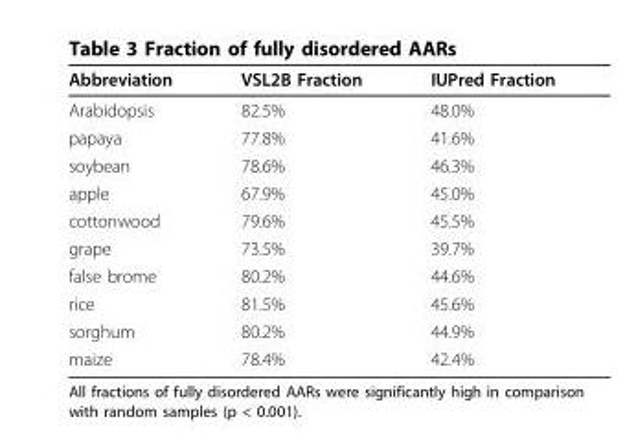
<table><thead><tr><td>Abbreviation</td><td>VSL2B Fraction</td><td>IUPred Fraction</td></tr></thead><tbody><tr><td>Arabidopsis</td><td>82.5%</td><td>48.0%</td></tr><tr><td>papaya</td><td>77.8%</td><td>41.6%</td></tr><tr><td>soybean</td><td>78.6%</td><td>46.3%</td></tr><tr><td>apple</td><td>67.9%</td><td>45.0%</td></tr><tr><td>cottonwood</td><td>79.6%</td><td>45.5%</td></tr><tr><td>grape</td><td>73.5%</td><td>39.7%</td></tr><tr><td>false brome</td><td>80.2%</td><td>44.6%</td></tr><tr><td>rice</td><td>81.5%</td><td>45.6%</td></tr><tr><td>sorghum</td><td>80.2%</td><td>44.9%</td></tr><tr><td>maize</td><td>78.4%</td><td>42.4%</td></tr></tbody></table>